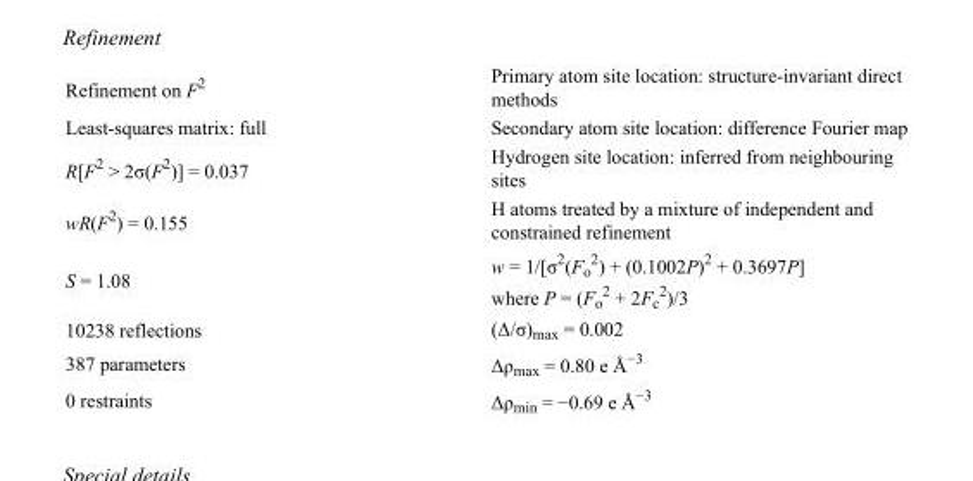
<table><tbody><tr><td>Refinement on F<sup>2</sup></td><td>Primary atom site location: structure-invariant direct methods</td></tr><tr><td>Least-squares matrix: full</td><td>Secondary atom site location: difference Fourier map</td></tr><tr><td>R[F<sup>2</sup> &gt; 2σ(F<sup>2</sup>)] = 0.037</td><td>Hydrogen site location: inferred from neighbouring sites</td></tr><tr><td>wR(F<sup>2</sup>) = 0.155</td><td>H atoms treated by a mixture of independent and constrained refinement</td></tr><tr><td>S = 1.08</td><td>w = 1/[σ<sup>2</sup>(F<sub>o</sub> <sup>2</sup>) + (0.1002P)<sup>2</sup> + 0.3697P] where P = (F<sub>o</sub> <sup>2</sup> + 2F<sub>c</sub> <sup>2</sup>)/3</td></tr><tr><td>10238 reflections</td><td>(Δ/σ)<sub>max</sub> = 0.002</td></tr><tr><td>387 parameters</td><td>Δρ<sub>max</sub> = 0.80 e Å<sup>−3</sup></td></tr><tr><td>0 restraints</td><td>Δρ<sub>min</sub> = −0.69 e Å<sup>−3</sup></td></tr></tbody></table>